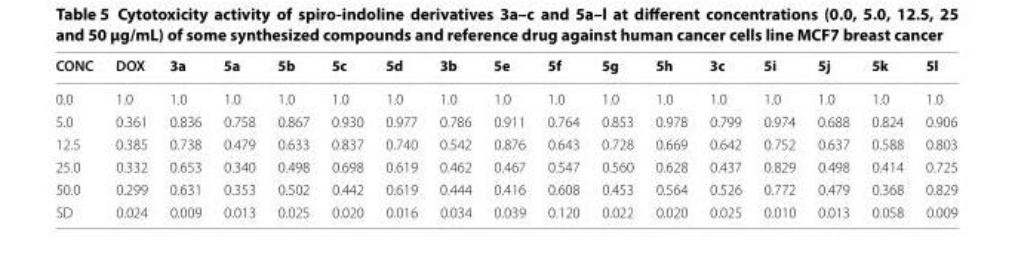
<table><thead><tr><td>CONC</td><td>DOX</td><td>3a</td><td>5a</td><td>5b</td><td>5c</td><td>5d</td><td>3b</td><td>5e</td><td>5f</td><td>5g</td><td>5h</td><td>3c</td><td>5i</td><td>5j</td><td>5k</td><td>5l</td></tr></thead><tbody><tr><td>0.0</td><td>1.0</td><td>1.0</td><td>1.0</td><td>1.0</td><td>1.0</td><td>1.0</td><td>1.0</td><td>1.0</td><td>1.0</td><td>1.0</td><td>1.0</td><td>1.0</td><td>1.0</td><td>1.0</td><td>1.0</td><td>1.0</td></tr><tr><td>5.0</td><td>0.361</td><td>0.836</td><td>0.758</td><td>0.867</td><td>0.930</td><td>0.977</td><td>0.786</td><td>0.911</td><td>0.764</td><td>0.853</td><td>0.978</td><td>0.799</td><td>0.974</td><td>0.688</td><td>0.824</td><td>0.906</td></tr><tr><td>12.5</td><td>0.385</td><td>0.738</td><td>0.479</td><td>0.633</td><td>0.837</td><td>0.740</td><td>0.542</td><td>0.876</td><td>0.643</td><td>0.728</td><td>0.669</td><td>0.642</td><td>0.752</td><td>0.637</td><td>0.588</td><td>0.803</td></tr><tr><td>25.0</td><td>0.332</td><td>0.653</td><td>0.340</td><td>0.498</td><td>0.698</td><td>0.619</td><td>0.462</td><td>0.467</td><td>0.547</td><td>0.560</td><td>0.628</td><td>0.437</td><td>0.829</td><td>0.498</td><td>0.414</td><td>0.725</td></tr><tr><td>50.0</td><td>0.299</td><td>0.631</td><td>0.353</td><td>0.502</td><td>0.442</td><td>0.619</td><td>0.444</td><td>0.416</td><td>0.608</td><td>0.453</td><td>0.564</td><td>0.526</td><td>0.772</td><td>0.479</td><td>0.368</td><td>0.829</td></tr><tr><td>SD</td><td>0.024</td><td>0.009</td><td>0.013</td><td>0.025</td><td>0.020</td><td>0.016</td><td>0.034</td><td>0.039</td><td>0.120</td><td>0.022</td><td>0.020</td><td>0.025</td><td>0.010</td><td>0.013</td><td>0.058</td><td>0.009</td></tr></tbody></table>